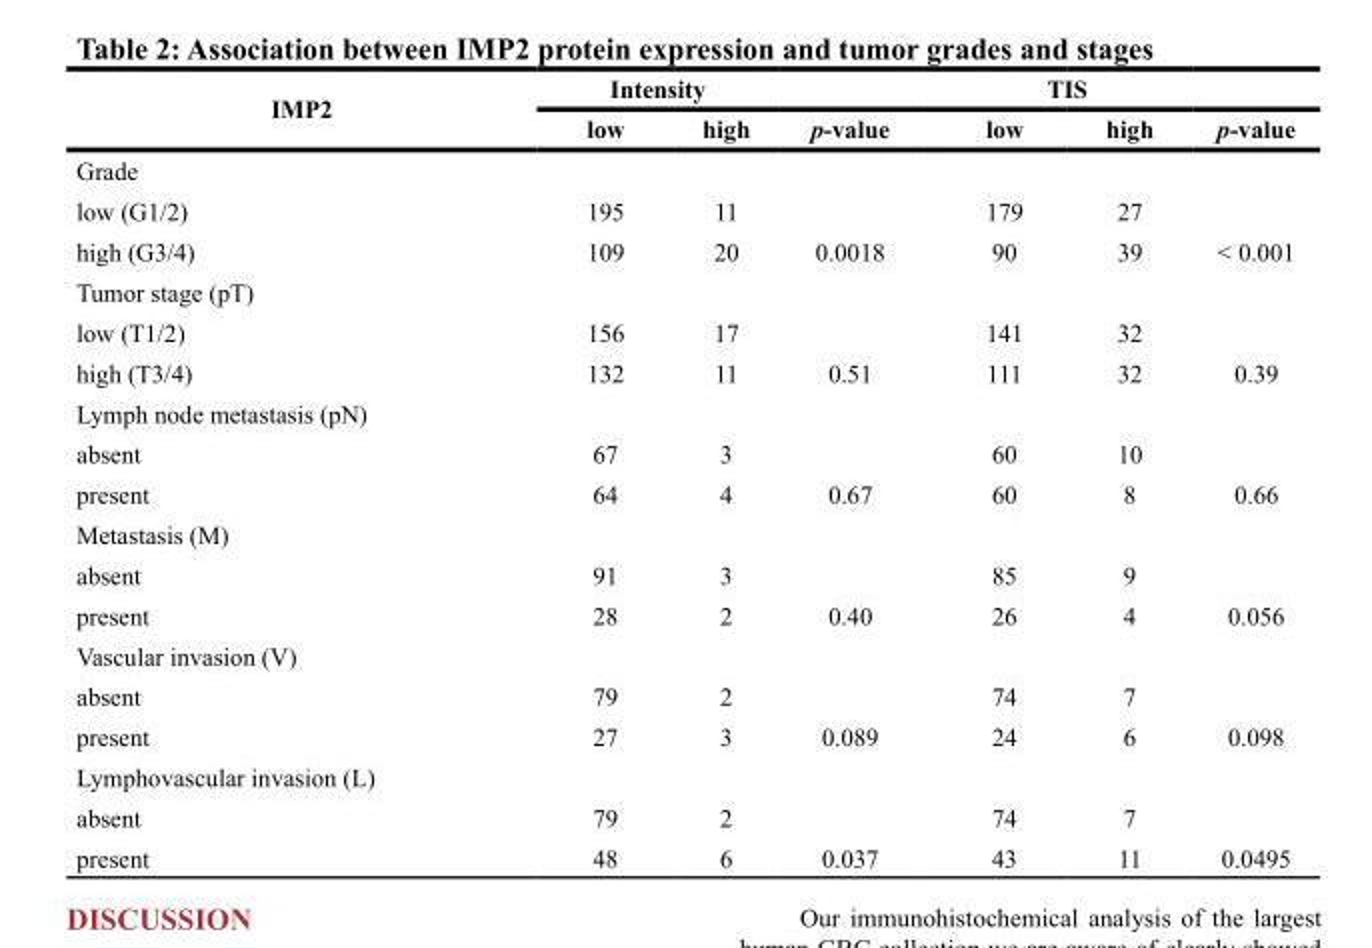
<table><thead><tr><td rowspan="2">IMP2</td><td colspan="2">Intensity</td><td colspan="4">TIS</td></tr><tr><td>low</td><td>high</td><td>p-value</td><td>low</td><td>high</td><td>p-value</td></tr></thead><tbody><tr><td colspan="7">Grade</td></tr><tr><td>low (G1/2)</td><td>195</td><td>11</td><td></td><td>179</td><td>27</td><td></td></tr><tr><td>high (G3/4)</td><td>109</td><td>20</td><td>0.0018</td><td>90</td><td>39</td><td>&lt; 0.001</td></tr><tr><td colspan="7">Tumor stage (pT)</td></tr><tr><td>low (T1/2)</td><td>156</td><td>17</td><td></td><td>141</td><td>32</td><td></td></tr><tr><td>high (T3/4)</td><td>132</td><td>11</td><td>0.51</td><td>111</td><td>32</td><td>0.39</td></tr><tr><td colspan="7">Lymph node metastasis (pN)</td></tr><tr><td>absent</td><td>67</td><td>3</td><td></td><td>60</td><td>10</td><td></td></tr><tr><td>present</td><td>64</td><td>4</td><td>0.67</td><td>60</td><td>8</td><td>0.66</td></tr><tr><td colspan="7">Metastasis (M)</td></tr><tr><td>absent</td><td>91</td><td>3</td><td></td><td>85</td><td>9</td><td></td></tr><tr><td>present</td><td>28</td><td>2</td><td>0.40</td><td>26</td><td>4</td><td>0.056</td></tr><tr><td colspan="7">Vascular invasion (V)</td></tr><tr><td>absent</td><td>79</td><td>2</td><td></td><td>74</td><td>7</td><td></td></tr><tr><td>present</td><td>27</td><td>3</td><td>0.089</td><td>24</td><td>6</td><td>0.098</td></tr><tr><td colspan="7">Lymphovascular invasion (L)</td></tr><tr><td>absent</td><td>79</td><td>2</td><td></td><td>74</td><td>7</td><td></td></tr><tr><td>present</td><td>48</td><td>6</td><td>0.037</td><td>43</td><td>11</td><td>0.0495</td></tr></tbody></table>